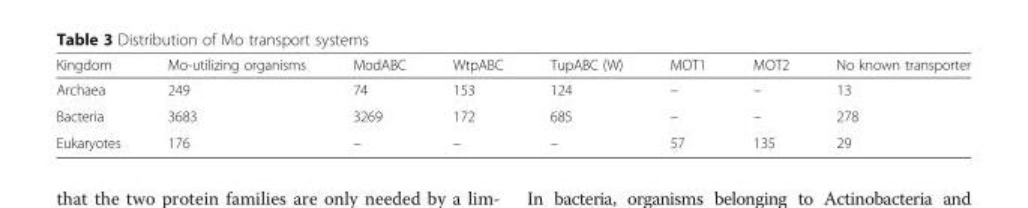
<table><thead><tr><td>Kingdom</td><td>Mo-utilizing organisms</td><td>ModABC</td><td>WtpABC</td><td>TupABC (W)</td><td>MOT1</td><td>MOT2</td><td>No known transporter</td></tr></thead><tbody><tr><td>Archaea</td><td>249</td><td>74</td><td>153</td><td>124</td><td>–</td><td>–</td><td>13</td></tr><tr><td>Bacteria</td><td>3683</td><td>3269</td><td>172</td><td>685</td><td>–</td><td>–</td><td>278</td></tr><tr><td>Eukaryotes</td><td>176</td><td>–</td><td>–</td><td>–</td><td>57</td><td>135</td><td>29</td></tr></tbody></table>